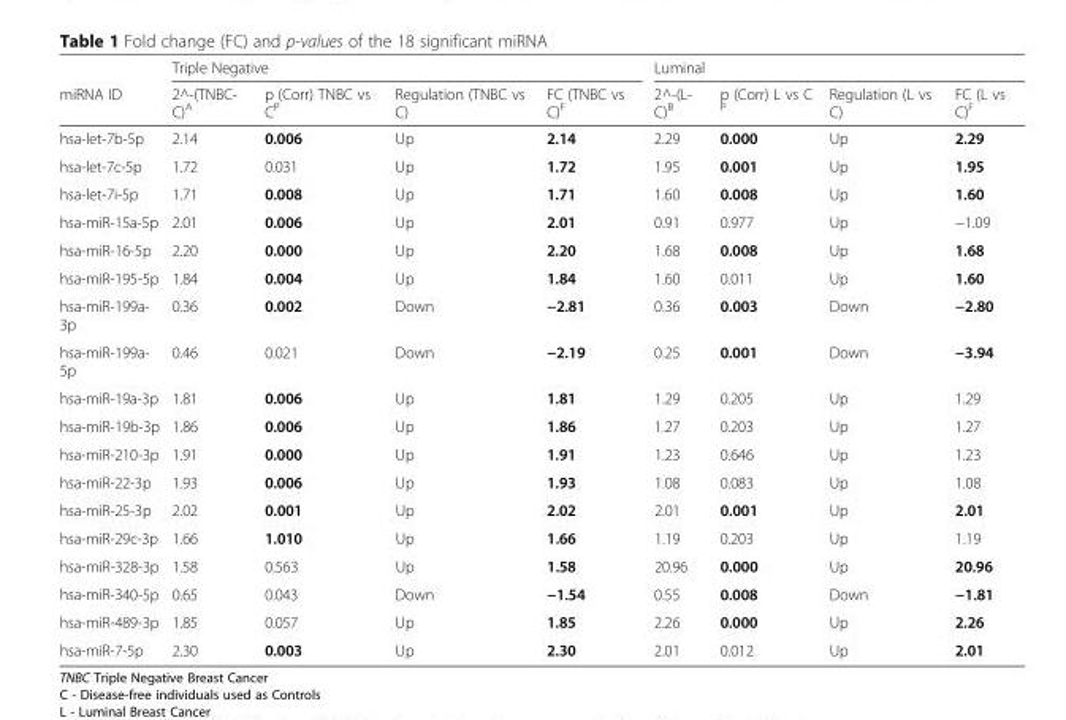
<table><thead><tr><td rowspan="2">miRNA ID</td><td colspan="4">Triple Negative</td><td colspan="4">Luminal</td></tr><tr><td>2^-(TNBC- C)<sup>A</sup></td><td>p (Corr) TNBC vs C<sup>P</sup></td><td>Regulation (TNBC vs C)</td><td>FC (TNBC vs C)<sup>F</sup></td><td>2^-(L- C)<sup>B</sup></td><td>p (Corr) L vs C <sup>P</sup></td><td>Regulation (L vs C)</td><td>FC (L vs C)<sup>F</sup></td></tr></thead><tbody><tr><td>hsa-let-7b-5p</td><td>2.14</td><td>0.006</td><td>Up</td><td>2.14</td><td>2.29</td><td>0.000</td><td>Up</td><td>2.29</td></tr><tr><td>hsa-let-7c-5p</td><td>1.72</td><td>0.031</td><td>Up</td><td>1.72</td><td>1.95</td><td>0.001</td><td>Up</td><td>1.95</td></tr><tr><td>hsa-let-7i-5p</td><td>1.71</td><td>0.008</td><td>Up</td><td>1.71</td><td>1.60</td><td>0.008</td><td>Up</td><td>1.60</td></tr><tr><td>hsa-miR-15a-5p</td><td>2.01</td><td>0.006</td><td>Up</td><td>2.01</td><td>0.91</td><td>0.977</td><td>Up</td><td>−1.09</td></tr><tr><td>hsa-miR-16-5p</td><td>2.20</td><td>0.000</td><td>Up</td><td>2.20</td><td>1.68</td><td>0.008</td><td>Up</td><td>1.68</td></tr><tr><td>hsa-miR-195-5p</td><td>1.84</td><td>0.004</td><td>Up</td><td>1.84</td><td>1.60</td><td>0.011</td><td>Up</td><td>1.60</td></tr><tr><td>hsa-miR-199a- 3p</td><td>0.36</td><td>0.002</td><td>Down</td><td>−2.81</td><td>0.36</td><td>0.003</td><td>Down</td><td>−2.80</td></tr><tr><td>hsa-miR-199a- 5p</td><td>0.46</td><td>0.021</td><td>Down</td><td>−2.19</td><td>0.25</td><td>0.001</td><td>Down</td><td>−3.94</td></tr><tr><td>hsa-miR-19a-3p</td><td>1.81</td><td>0.006</td><td>Up</td><td>1.81</td><td>1.29</td><td>0.205</td><td>Up</td><td>1.29</td></tr><tr><td>hsa-miR-19b-3p</td><td>1.86</td><td>0.006</td><td>Up</td><td>1.86</td><td>1.27</td><td>0.203</td><td>Up</td><td>1.27</td></tr><tr><td>hsa-miR-210-3p</td><td>1.91</td><td>0.000</td><td>Up</td><td>1.91</td><td>1.23</td><td>0.646</td><td>Up</td><td>1.23</td></tr><tr><td>hsa-miR-22-3p</td><td>1.93</td><td>0.006</td><td>Up</td><td>1.93</td><td>1.08</td><td>0.083</td><td>Up</td><td>1.08</td></tr><tr><td>hsa-miR-25-3p</td><td>2.02</td><td>0.001</td><td>Up</td><td>2.02</td><td>2.01</td><td>0.001</td><td>Up</td><td>2.01</td></tr><tr><td>hsa-miR-29c-3p</td><td>1.66</td><td>1.010</td><td>Up</td><td>1.66</td><td>1.19</td><td>0.203</td><td>Up</td><td>1.19</td></tr><tr><td>hsa-miR-328-3p</td><td>1.58</td><td>0.563</td><td>Up</td><td>1.58</td><td>20.96</td><td>0.000</td><td>Up</td><td>20.96</td></tr><tr><td>hsa-miR-340-5p</td><td>0.65</td><td>0.043</td><td>Down</td><td>−1.54</td><td>0.55</td><td>0.008</td><td>Down</td><td>−1.81</td></tr><tr><td>hsa-miR-489-3p</td><td>1.85</td><td>0.057</td><td>Up</td><td>1.85</td><td>2.26</td><td>0.000</td><td>Up</td><td>2.26</td></tr><tr><td>hsa-miR-7-5p</td><td>2.30</td><td>0.003</td><td>Up</td><td>2.30</td><td>2.01</td><td>0.012</td><td>Up</td><td>2.01</td></tr></tbody></table>